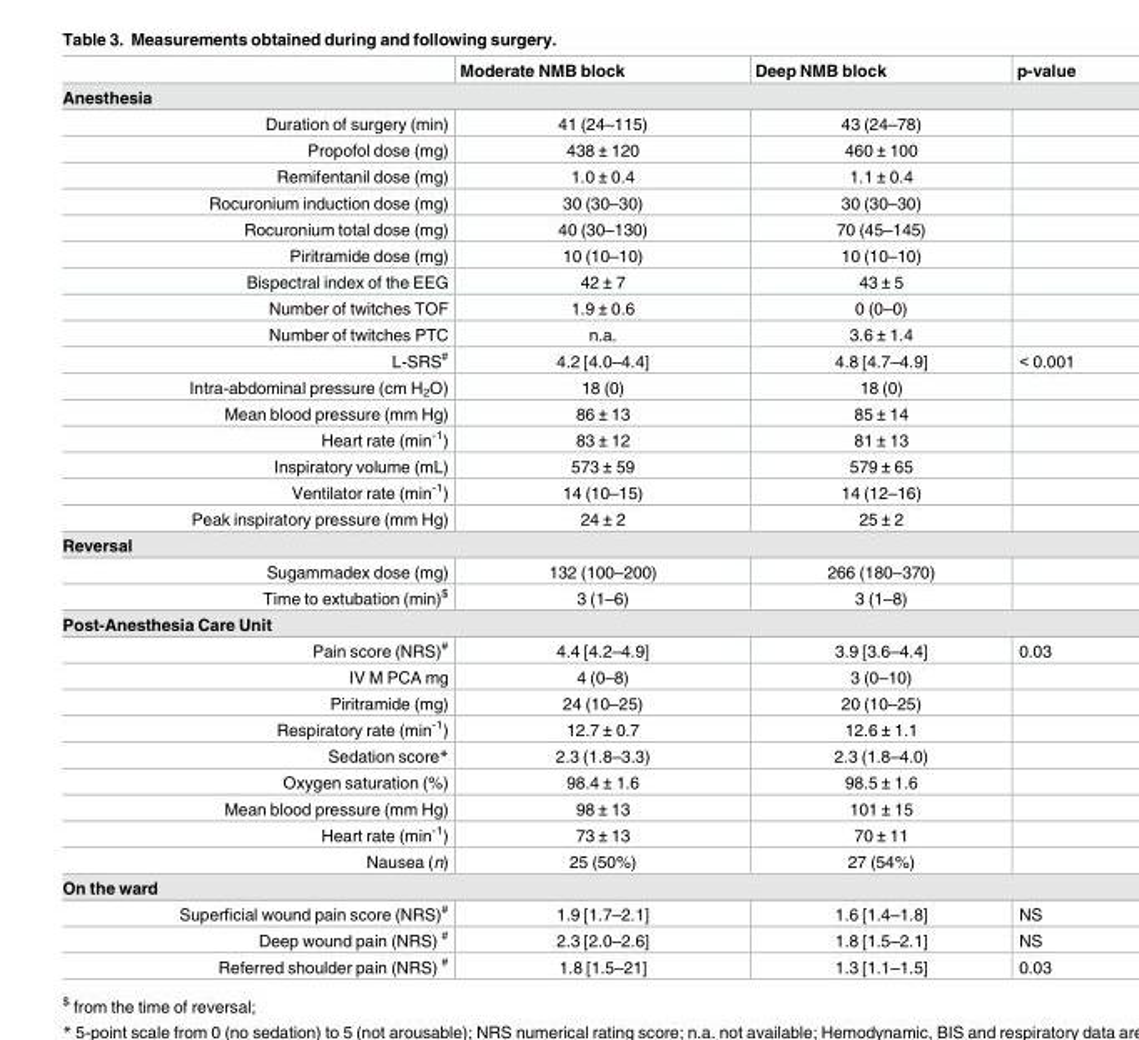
<table><thead><tr><td></td><td>Moderate NMB block</td><td>Deep NMB block</td><td>p-value</td></tr></thead><tbody><tr><td colspan="4">Anesthesia</td></tr><tr><td>Duration of surgery (min)</td><td>41 (24–115)</td><td>43 (24–78)</td><td></td></tr><tr><td>Propofol dose (mg)</td><td>438 ± 120</td><td>460 ± 100</td><td></td></tr><tr><td>Remifentanil dose (mg)</td><td>1.0 ± 0.4</td><td>1.1 ± 0.4</td><td></td></tr><tr><td>Rocuronium induction dose (mg)</td><td>30 (30–30)</td><td>30 (30–30)</td><td></td></tr><tr><td>Rocuronium total dose (mg)</td><td>40 (30–130)</td><td>70 (45–145)</td><td></td></tr><tr><td>Piritramide dose (mg)</td><td>10 (10–10)</td><td>10 (10–10)</td><td></td></tr><tr><td>Bispectral index of the EEG</td><td>42 ± 7</td><td>43 ± 5</td><td></td></tr><tr><td>Number of twitches TOF</td><td>1.9 ± 0.6</td><td>0 (0–0)</td><td></td></tr><tr><td>Number of twitches PTC</td><td>n.a.</td><td>3.6 ± 1.4</td><td></td></tr><tr><td>L-SRS<sup>#</sup></td><td>4.2 [4.0–4.4]</td><td>4.8 [4.7–4.9]</td><td>&lt; 0.001</td></tr><tr><td>Intra-abdominal pressure (cm H<sub>2</sub>O)</td><td>18 (0)</td><td>18 (0)</td><td></td></tr><tr><td>Mean blood pressure (mm Hg)</td><td>86 ± 13</td><td>85 ± 14</td><td></td></tr><tr><td>Heart rate (min<sup>-1</sup>)</td><td>83 ± 12</td><td>81 ± 13</td><td></td></tr><tr><td>Inspiratory volume (mL)</td><td>573 ± 59</td><td>579 ± 65</td><td></td></tr><tr><td>Ventilator rate (min<sup>-1</sup>)</td><td>14 (10–15)</td><td>14 (12–16)</td><td></td></tr><tr><td>Peak inspiratory pressure (mm Hg)</td><td>24 ± 2</td><td>25 ± 2</td><td></td></tr><tr><td colspan="4">Reversal</td></tr><tr><td>Sugammadex dose (mg)</td><td>132 (100–200)</td><td>266 (180–370)</td><td></td></tr><tr><td>Time to extubation (min)<sup>$</sup></td><td>3 (1–6)</td><td>3 (1–8)</td><td></td></tr><tr><td colspan="4">Post-Anesthesia Care Unit</td></tr><tr><td>Pain score (NRS)<sup>#</sup></td><td>4.4 [4.2–4.9]</td><td>3.9 [3.6–4.4]</td><td>0.03</td></tr><tr><td>IV M PCA mg</td><td>4 (0–8)</td><td>3 (0–10)</td><td></td></tr><tr><td>Piritramide (mg)</td><td>24 (10–25)</td><td>20 (10–25)</td><td></td></tr><tr><td>Respiratory rate (min<sup>-1</sup>)</td><td>12.7 ± 0.7</td><td>12.6 ± 1.1</td><td></td></tr><tr><td>Sedation score*</td><td>2.3 (1.8–3.3)</td><td>2.3 (1.8–4.0)</td><td></td></tr><tr><td>Oxygen saturation (%)</td><td>98.4 ± 1.6</td><td>98.5 ± 1.6</td><td></td></tr><tr><td>Mean blood pressure (mm Hg)</td><td>98 ± 13</td><td>101 ± 15</td><td></td></tr><tr><td>Heart rate (min<sup>-1</sup>)</td><td>73 ± 13</td><td>70 ± 11</td><td></td></tr><tr><td>Nausea (n)</td><td>25 (50%)</td><td>27 (54%)</td><td></td></tr><tr><td colspan="4">On the ward</td></tr><tr><td>Superficial wound pain score (NRS)<sup>#</sup></td><td>1.9 [1.7–2.1]</td><td>1.6 [1.4–1.8]</td><td>NS</td></tr><tr><td>Deep wound pain (NRS) <sup>#</sup></td><td>2.3 [2.0–2.6]</td><td>1.8 [1.5–2.1]</td><td>NS</td></tr><tr><td>Referred shoulder pain (NRS) <sup>#</sup></td><td>1.8 [1.5–21]</td><td>1.3 [1.1–1.5]</td><td>0.03</td></tr></tbody></table>